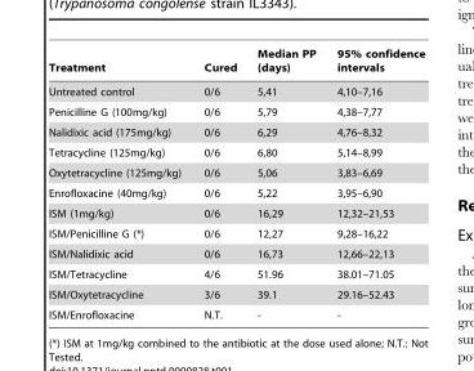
<table><thead><tr><td>Treatment</td><td>Cured</td><td>Median PP (days)</td><td>95% confidence intervals</td></tr></thead><tbody><tr><td>Untreated control</td><td>0/6</td><td>5,41</td><td>4,10–7,16</td></tr><tr><td>Penicilline G (100mg/kg)</td><td>0/6</td><td>5,79</td><td>4,38–7,77</td></tr><tr><td>Nalidixic acid (175mg/kg)</td><td>0/6</td><td>6,29</td><td>4,76–8,32</td></tr><tr><td>Tetracycline (125mg/kg)</td><td>0/6</td><td>6,80</td><td>5,14–8,99</td></tr><tr><td>Oxytetracycline (125mg/kg)</td><td>0/6</td><td>5,06</td><td>3,83–6,69</td></tr><tr><td>Enrofloxacine (40mg/kg)</td><td>0/6</td><td>5,22</td><td>3,95–6,90</td></tr><tr><td>ISM (1mg/kg)</td><td>0/6</td><td>16,29</td><td>12,32–21,53</td></tr><tr><td>ISM/Penicilline G (*)</td><td>0/6</td><td>12,27</td><td>9,28–16,22</td></tr><tr><td>ISM/Nalidixic acid</td><td>0/6</td><td>16,73</td><td>12,66–22,13</td></tr><tr><td>ISM/Tetracycline</td><td>4/6</td><td>51.96</td><td>38.01–71.05</td></tr><tr><td>ISM/Oxytetracycline</td><td>3/6</td><td>39.1</td><td>29.16–52.43</td></tr><tr><td>ISM/Enrofloxacine</td><td>N.T.</td><td>-</td><td>-</td></tr></tbody></table>